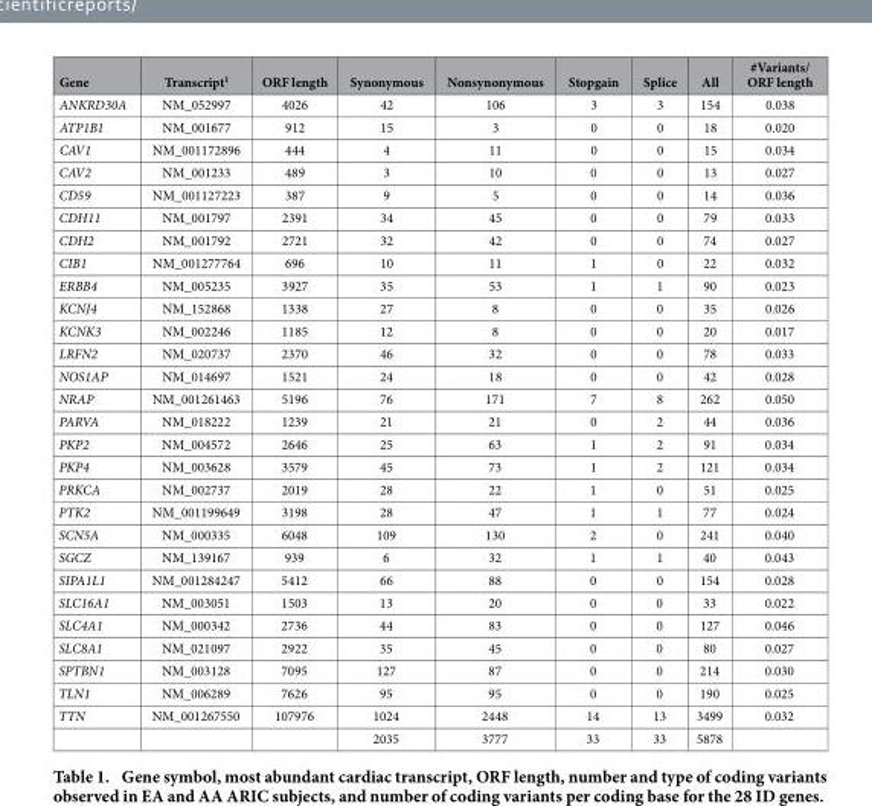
<table><thead><tr><td>Gene</td><td>Transcript<sup>1</sup></td><td>ORF length</td><td>Synonymous</td><td>Nonsynonymous</td><td>Stopgain</td><td>Splice</td><td>All</td><td>#Variants/ ORF length</td></tr></thead><tbody><tr><td>ANKRD30A</td><td>NM_052997</td><td>4026</td><td>42</td><td>106</td><td>3</td><td>3</td><td>154</td><td>0.038</td></tr><tr><td>ATP1B1</td><td>NM_001677</td><td>912</td><td>15</td><td>3</td><td>0</td><td>0</td><td>18</td><td>0.020</td></tr><tr><td>CAV1</td><td>NM_001172896</td><td>444</td><td>4</td><td>11</td><td>0</td><td>0</td><td>15</td><td>0.034</td></tr><tr><td>CAV2</td><td>NM_001233</td><td>489</td><td>3</td><td>10</td><td>0</td><td>0</td><td>13</td><td>0.027</td></tr><tr><td>CD59</td><td>NM_001127223</td><td>387</td><td>9</td><td>5</td><td>0</td><td>0</td><td>14</td><td>0.036</td></tr><tr><td>CDH11</td><td>NM_001797</td><td>2391</td><td>34</td><td>45</td><td>0</td><td>0</td><td>79</td><td>0.033</td></tr><tr><td>CDH2</td><td>NM_001792</td><td>2721</td><td>32</td><td>42</td><td>0</td><td>0</td><td>74</td><td>0.027</td></tr><tr><td>CIB1</td><td>NM_001277764</td><td>696</td><td>10</td><td>11</td><td>1</td><td>0</td><td>22</td><td>0.032</td></tr><tr><td>ERBB4</td><td>NM_005235</td><td>3927</td><td>35</td><td>53</td><td>1</td><td>1</td><td>90</td><td>0.023</td></tr><tr><td>KCNJ4</td><td>NM_152868</td><td>1338</td><td>27</td><td>8</td><td>0</td><td>0</td><td>35</td><td>0.026</td></tr><tr><td>KCNK3</td><td>NM_002246</td><td>1185</td><td>12</td><td>8</td><td>0</td><td>0</td><td>20</td><td>0.017</td></tr><tr><td>LRFN2</td><td>NM_020737</td><td>2370</td><td>46</td><td>32</td><td>0</td><td>0</td><td>78</td><td>0.033</td></tr><tr><td>NOS1AP</td><td>NM_014697</td><td>1521</td><td>24</td><td>18</td><td>0</td><td>0</td><td>42</td><td>0.028</td></tr><tr><td>NRAP</td><td>NM_001261463</td><td>5196</td><td>76</td><td>171</td><td>7</td><td>8</td><td>262</td><td>0.050</td></tr><tr><td>PARVA</td><td>NM_018222</td><td>1239</td><td>21</td><td>21</td><td>0</td><td>2</td><td>44</td><td>0.036</td></tr><tr><td>PKP2</td><td>NM_004572</td><td>2646</td><td>25</td><td>63</td><td>1</td><td>2</td><td>91</td><td>0.034</td></tr><tr><td>PKP4</td><td>NM_003628</td><td>3579</td><td>45</td><td>73</td><td>1</td><td>2</td><td>121</td><td>0.034</td></tr><tr><td>PRKCA</td><td>NM_002737</td><td>2019</td><td>28</td><td>22</td><td>1</td><td>0</td><td>51</td><td>0.025</td></tr><tr><td>PTK2</td><td>NM_001199649</td><td>3198</td><td>28</td><td>47</td><td>1</td><td>1</td><td>77</td><td>0.024</td></tr><tr><td>SCN5A</td><td>NM_000335</td><td>6048</td><td>109</td><td>130</td><td>2</td><td>0</td><td>241</td><td>0.040</td></tr><tr><td>SGCZ</td><td>NM_139167</td><td>939</td><td>6</td><td>32</td><td>1</td><td>1</td><td>40</td><td>0.043</td></tr><tr><td>SIPA1L1</td><td>NM_001284247</td><td>5412</td><td>66</td><td>88</td><td>0</td><td>0</td><td>154</td><td>0.028</td></tr><tr><td>SLC16A1</td><td>NM_003051</td><td>1503</td><td>13</td><td>20</td><td>0</td><td>0</td><td>33</td><td>0.022</td></tr><tr><td>SLC4A1</td><td>NM_000342</td><td>2736</td><td>44</td><td>83</td><td>0</td><td>0</td><td>127</td><td>0.046</td></tr><tr><td>SLC8A1</td><td>NM_021097</td><td>2922</td><td>35</td><td>45</td><td>0</td><td>0</td><td>80</td><td>0.027</td></tr><tr><td>SPTBN1</td><td>NM_003128</td><td>7095</td><td>127</td><td>87</td><td>0</td><td>0</td><td>214</td><td>0.030</td></tr><tr><td>TLN1</td><td>NM_006289</td><td>7626</td><td>95</td><td>95</td><td>0</td><td>0</td><td>190</td><td>0.025</td></tr><tr><td rowspan="2">TTN</td><td>NM_001267550</td><td>107976</td><td>1024</td><td>2448</td><td>14</td><td>13</td><td>3499</td><td>0.032</td></tr><tr><td></td><td></td><td>2035</td><td>3777</td><td>33</td><td>33</td><td>5878</td><td></td></tr></tbody></table>